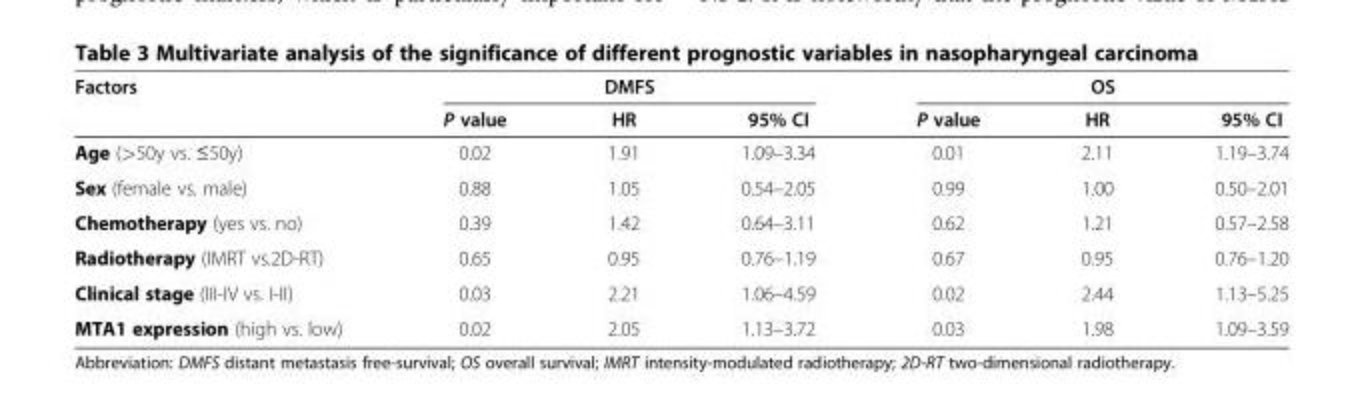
<table><thead><tr><td rowspan="2">Factors</td><td colspan="3">DMFS</td><td colspan="3">OS</td></tr><tr><td>P value</td><td>HR</td><td>95% CI</td><td>P value</td><td>HR</td><td>95% CI</td></tr></thead><tbody><tr><td>Age (&gt;50y vs. ≤50y)</td><td>0.02</td><td>1.91</td><td>1.09–3.34</td><td>0.01</td><td>2.11</td><td>1.19–3.74</td></tr><tr><td>Sex (female vs. male)</td><td>0.88</td><td>1.05</td><td>0.54–2.05</td><td>0.99</td><td>1.00</td><td>0.50–2.01</td></tr><tr><td>Chemotherapy (yes vs. no)</td><td>0.39</td><td>1.42</td><td>0.64–3.11</td><td>0.62</td><td>1.21</td><td>0.57–2.58</td></tr><tr><td>Radiotherapy (IMRT vs.2D-RT)</td><td>0.65</td><td>0.95</td><td>0.76–1.19</td><td>0.67</td><td>0.95</td><td>0.76–1.20</td></tr><tr><td>Clinical stage (III-IV vs. I-II)</td><td>0.03</td><td>2.21</td><td>1.06–4.59</td><td>0.02</td><td>2.44</td><td>1.13–5.25</td></tr><tr><td>MTA1 expression (high vs. low)</td><td>0.02</td><td>2.05</td><td>1.13–3.72</td><td>0.03</td><td>1.98</td><td>1.09–3.59</td></tr></tbody></table>